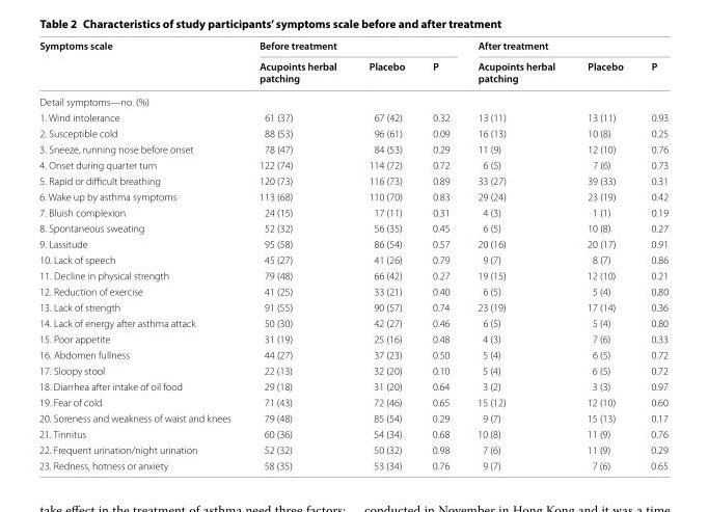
<table><thead><tr><td rowspan="2">Symptoms scale</td><td colspan="3">Before treatment</td><td colspan="3">After treatment</td></tr><tr><td>Acupoints herbal patching</td><td>Placebo</td><td>P</td><td>Acupoints herbal patching</td><td>Placebo</td><td>P</td></tr></thead><tbody><tr><td colspan="7">Detail symptoms—no. (%)</td></tr><tr><td>1. Wind intolerance</td><td>61 (37)</td><td>67 (42)</td><td>0.32</td><td>13 (11)</td><td>13 (11)</td><td>0.93</td></tr><tr><td>2. Susceptible cold</td><td>88 (53)</td><td>96 (61)</td><td>0.09</td><td>16 (13)</td><td>10 (8)</td><td>0.25</td></tr><tr><td>3. Sneeze, running nose before onset</td><td>78 (47)</td><td>84 (53)</td><td>0.29</td><td>11 (9)</td><td>12 (10)</td><td>0.76</td></tr><tr><td>4. Onset during quarter turn</td><td>122 (74)</td><td>114 (72)</td><td>0.72</td><td>6 (5)</td><td>7 (6)</td><td>0.73</td></tr><tr><td>5. Rapid or difficult breathing</td><td>120 (73)</td><td>116 (73)</td><td>0.89</td><td>33 (27)</td><td>39 (33)</td><td>0.31</td></tr><tr><td>6. Wake up by asthma symptoms</td><td>113 (68)</td><td>110 (70)</td><td>0.83</td><td>29 (24)</td><td>23 (19)</td><td>0.42</td></tr><tr><td>7. Bluish complexion</td><td>24 (15)</td><td>17 (11)</td><td>0.31</td><td>4 (3)</td><td>1 (1)</td><td>0.19</td></tr><tr><td>8. Spontaneous sweating</td><td>52 (32)</td><td>56 (35)</td><td>0.45</td><td>6 (5)</td><td>10 (8)</td><td>0.27</td></tr><tr><td>9. Lassitude</td><td>95 (58)</td><td>86 (54)</td><td>0.57</td><td>20 (16)</td><td>20 (17)</td><td>0.91</td></tr><tr><td>10. Lack of speech</td><td>45 (27)</td><td>41 (26)</td><td>0.79</td><td>9 (7)</td><td>8 (7)</td><td>0.86</td></tr><tr><td>11. Decline in physical strength</td><td>79 (48)</td><td>66 (42)</td><td>0.27</td><td>19 (15)</td><td>12 (10)</td><td>0.21</td></tr><tr><td>12. Reduction of exercise</td><td>41 (25)</td><td>33 (21)</td><td>0.40</td><td>6 (5)</td><td>5 (4)</td><td>0.80</td></tr><tr><td>13. Lack of strength</td><td>91 (55)</td><td>90 (57)</td><td>0.74</td><td>23 (19)</td><td>17 (14)</td><td>0.36</td></tr><tr><td>14. Lack of energy after asthma attack</td><td>50 (30)</td><td>42 (27)</td><td>0.46</td><td>6 (5)</td><td>5 (4)</td><td>0.80</td></tr><tr><td>15. Poor appetite</td><td>31 (19)</td><td>25 (16)</td><td>0.48</td><td>4 (3)</td><td>7 (6)</td><td>0.33</td></tr><tr><td>16. Abdomen fullness</td><td>44 (27)</td><td>37 (23)</td><td>0.50</td><td>5 (4)</td><td>6 (5)</td><td>0.72</td></tr><tr><td>17. Sloopy stool</td><td>22 (13)</td><td>32 (20)</td><td>0.10</td><td>5 (4)</td><td>6 (5)</td><td>0.72</td></tr><tr><td>18. Diarrhea after intake of oil food</td><td>29 (18)</td><td>31 (20)</td><td>0.64</td><td>3 (2)</td><td>3 (3)</td><td>0.97</td></tr><tr><td>19. Fear of cold</td><td>71 (43)</td><td>72 (46)</td><td>0.65</td><td>15 (12)</td><td>12 (10)</td><td>0.60</td></tr><tr><td>20. Soreness and weakness of waist and knees</td><td>79 (48)</td><td>85 (54)</td><td>0.29</td><td>9 (7)</td><td>15 (13)</td><td>0.17</td></tr><tr><td>21. Tinnitus</td><td>60 (36)</td><td>54 (34)</td><td>0.68</td><td>10 (8)</td><td>11 (9)</td><td>0.76</td></tr><tr><td>22. Frequent urination/night urination</td><td>52 (32)</td><td>50 (32)</td><td>0.98</td><td>7 (6)</td><td>11 (9)</td><td>0.29</td></tr><tr><td>23. Redness, hotness or anxiety</td><td>58 (35)</td><td>53 (34)</td><td>0.76</td><td>9 (7)</td><td>7 (6)</td><td>0.65</td></tr></tbody></table>